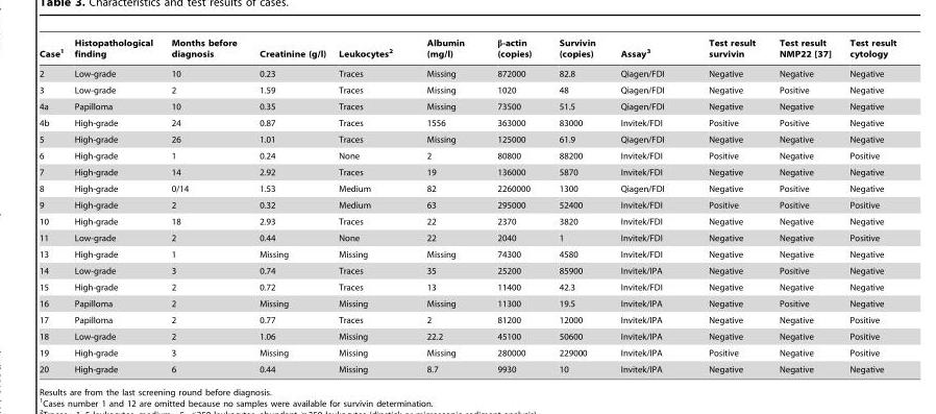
<table><thead><tr><td>Case<sup>1</sup></td><td>Histopathological finding</td><td>Months before diagnosis</td><td>Creatinine (g/l)</td><td>Leukocytes<sup>2</sup></td><td>Albumin (mg/l)</td><td>β-actin (copies)</td><td>Survivin (copies)</td><td>Assay<sup>3</sup></td><td>Test result survivin</td><td>Test result NMP22 [37]</td><td>Test result cytology</td></tr></thead><tbody><tr><td>2</td><td>Low-grade</td><td>10</td><td>0.23</td><td>Traces</td><td>Missing</td><td>872000</td><td>82.8</td><td>Qiagen/FDI</td><td>Negative</td><td>Negative</td><td>Negative</td></tr><tr><td>3</td><td>Low-grade</td><td>2</td><td>1.59</td><td>Traces</td><td>Missing</td><td>1020</td><td>48</td><td>Qiagen/FDI</td><td>Negative</td><td>Positive</td><td>Negative</td></tr><tr><td>4a</td><td>Papilloma</td><td>10</td><td>0.35</td><td>Traces</td><td>Missing</td><td>73500</td><td>51.5</td><td>Qiagen/FDI</td><td>Negative</td><td>Negative</td><td>Negative</td></tr><tr><td>4b</td><td>High-grade</td><td>24</td><td>0.87</td><td>Traces</td><td>1556</td><td>363000</td><td>83000</td><td>Invitek/FDI</td><td>Positive</td><td>Positive</td><td>Negative</td></tr><tr><td>5</td><td>High-grade</td><td>26</td><td>1.01</td><td>Traces</td><td>Missing</td><td>125000</td><td>61.9</td><td>Qiagen/FDI</td><td>Negative</td><td>Negative</td><td>Negative</td></tr><tr><td>6</td><td>High-grade</td><td>1</td><td>0.24</td><td>None</td><td>2</td><td>80800</td><td>88200</td><td>Invitek/FDI</td><td>Positive</td><td>Negative</td><td>Positive</td></tr><tr><td>7</td><td>High-grade</td><td>14</td><td>2.92</td><td>Traces</td><td>19</td><td>136000</td><td>5870</td><td>Invitek/FDI</td><td>Negative</td><td>Negative</td><td>Negative</td></tr><tr><td>8</td><td>High-grade</td><td>0/14</td><td>1.53</td><td>Medium</td><td>82</td><td>2260000</td><td>1300</td><td>Qiagen/FDI</td><td>Negative</td><td>Positive</td><td>Negative</td></tr><tr><td>9</td><td>High-grade</td><td>2</td><td>0.32</td><td>Medium</td><td>63</td><td>295000</td><td>52400</td><td>Invitek/FDI</td><td>Positive</td><td>Positive</td><td>Positive</td></tr><tr><td>10</td><td>High-grade</td><td>18</td><td>2.93</td><td>Traces</td><td>22</td><td>2370</td><td>3820</td><td>Invitek/FDI</td><td>Negative</td><td>Negative</td><td>Negative</td></tr><tr><td>11</td><td>Low-grade</td><td>2</td><td>0.44</td><td>None</td><td>22</td><td>2040</td><td>1</td><td>Invitek/FDI</td><td>Negative</td><td>Negative</td><td>Positive</td></tr><tr><td>13</td><td>High-grade</td><td>1</td><td>Missing</td><td>Missing</td><td>Missing</td><td>74300</td><td>4580</td><td>Invitek/FDI</td><td>Negative</td><td>Negative</td><td>Negative</td></tr><tr><td>14</td><td>Low-grade</td><td>3</td><td>0.74</td><td>Traces</td><td>35</td><td>25200</td><td>85900</td><td>Invitek/IPA</td><td>Negative</td><td>Positive</td><td>Negative</td></tr><tr><td>15</td><td>High-grade</td><td>2</td><td>0.72</td><td>Traces</td><td>13</td><td>11400</td><td>42.3</td><td>Invitek/FDI</td><td>Negative</td><td>Negative</td><td>Negative</td></tr><tr><td>16</td><td>Papilloma</td><td>2</td><td>Missing</td><td>Missing</td><td>Missing</td><td>11300</td><td>19.5</td><td>Invitek/IPA</td><td>Negative</td><td>Positive</td><td>Negative</td></tr><tr><td>17</td><td>Papilloma</td><td>2</td><td>0.77</td><td>Traces</td><td>2</td><td>81200</td><td>12000</td><td>Invitek/IPA</td><td>Negative</td><td>Negative</td><td>Positive</td></tr><tr><td>18</td><td>Low-grade</td><td>2</td><td>1.06</td><td>Missing</td><td>22.2</td><td>45100</td><td>50600</td><td>Invitek/IPA</td><td>Negative</td><td>Negative</td><td>Positive</td></tr><tr><td>19</td><td>High-grade</td><td>3</td><td>Missing</td><td>Missing</td><td>Missing</td><td>280000</td><td>229000</td><td>Invitek/IPA</td><td>Positive</td><td>Negative</td><td>Positive</td></tr><tr><td>20</td><td>High-grade</td><td>6</td><td>0.44</td><td>Missing</td><td>8.7</td><td>9930</td><td>10</td><td>Invitek/IPA</td><td>Negative</td><td>Negative</td><td>Negative</td></tr></tbody></table>